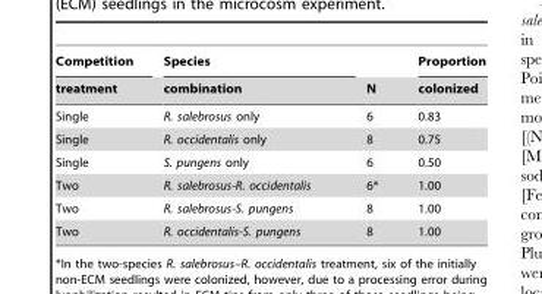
<table><thead><tr><td rowspan="2">Competition treatment</td><td rowspan="2">Species combination</td><td rowspan="2">N</td><td rowspan="2">Proportion colonized</td></tr><tr></tr></thead><tbody><tr><td>Single</td><td>R. salebrosus only</td><td>6</td><td>0.83</td></tr><tr><td>Single</td><td>R. occidentalis only</td><td>8</td><td>0.75</td></tr><tr><td>Single</td><td>S. pungens only</td><td>6</td><td>0.50</td></tr><tr><td>Two</td><td>R. salebrosus-R. occidentalis</td><td>6*</td><td>1.00</td></tr><tr><td>Two</td><td>R. salebrosus-S. pungens</td><td>8</td><td>1.00</td></tr><tr><td>Two</td><td>R. occidentalis-S. pungens</td><td>8</td><td>1.00</td></tr></tbody></table>